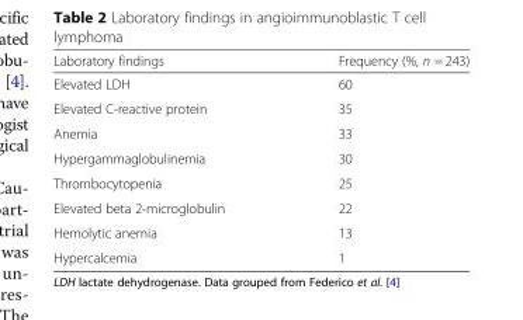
<table><thead><tr><td>Laboratory findings</td><td>Frequency (%, n = 243)</td></tr></thead><tbody><tr><td>Elevated LDH</td><td>60</td></tr><tr><td>Elevated C-reactive protein</td><td>35</td></tr><tr><td>Anemia</td><td>33</td></tr><tr><td>Hypergammaglobulinemia</td><td>30</td></tr><tr><td>Thrombocytopenia</td><td>25</td></tr><tr><td>Elevated beta 2-microglobulin</td><td>22</td></tr><tr><td>Hemolytic anemia</td><td>13</td></tr><tr><td>Hypercalcemia</td><td>1</td></tr></tbody></table>